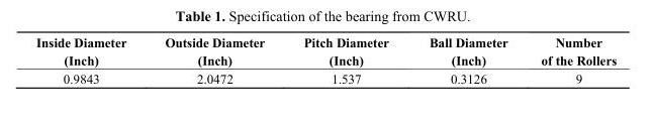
<table><thead><tr><td>Inside Diameter (Inch)</td><td>Outside Diameter (Inch)</td><td>Pitch Diameter (Inch)</td><td>Ball Diameter (Inch)</td><td>Number of the Rollers</td></tr></thead><tbody><tr><td>0.9843</td><td>2.0472</td><td>1.537</td><td>0.3126</td><td>9</td></tr></tbody></table>